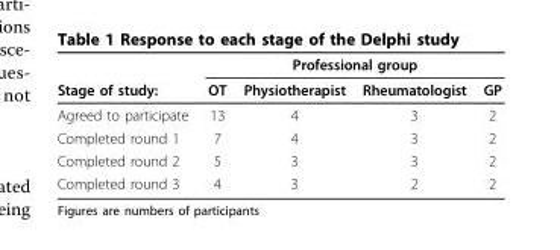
<table><thead><tr><td rowspan="2">Stage of study:</td><td colspan="4">Professional group</td></tr><tr><td>OT</td><td>Physiotherapist</td><td>Rheumatologist</td><td>GP</td></tr></thead><tbody><tr><td>Agreed to participate</td><td>13</td><td>4</td><td>3</td><td>2</td></tr><tr><td>Completed round 1</td><td>7</td><td>4</td><td>3</td><td>2</td></tr><tr><td>Completed round 2</td><td>5</td><td>3</td><td>3</td><td>2</td></tr><tr><td>Completed round 3</td><td>4</td><td>3</td><td>2</td><td>2</td></tr></tbody></table>